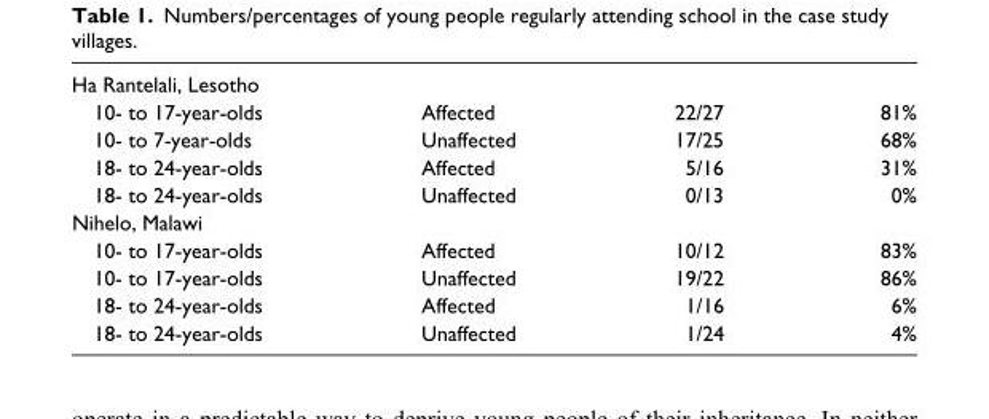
<table><tbody><tr><td colspan="4">Ha Rantelali, Lesotho</td></tr><tr><td>10- to 17-year-olds</td><td>Affected</td><td>22/27</td><td>81%</td></tr><tr><td>10- to 7-year-olds</td><td>Unaffected</td><td>17/25</td><td>68%</td></tr><tr><td>18- to 24-year-olds</td><td>Affected</td><td>5/16</td><td>31%</td></tr><tr><td>18- to 24-year-olds</td><td>Unaffected</td><td>0/13</td><td>0%</td></tr><tr><td colspan="4">Nihelo, Malawi</td></tr><tr><td>10- to 17-year-olds</td><td>Affected</td><td>10/12</td><td>83%</td></tr><tr><td>10- to 17-year-olds</td><td>Unaffected</td><td>19/22</td><td>86%</td></tr><tr><td>18- to 24-year-olds</td><td>Affected</td><td>1/16</td><td>6%</td></tr><tr><td>18- to 24-year-olds</td><td>Unaffected</td><td>1/24</td><td>4%</td></tr></tbody></table>